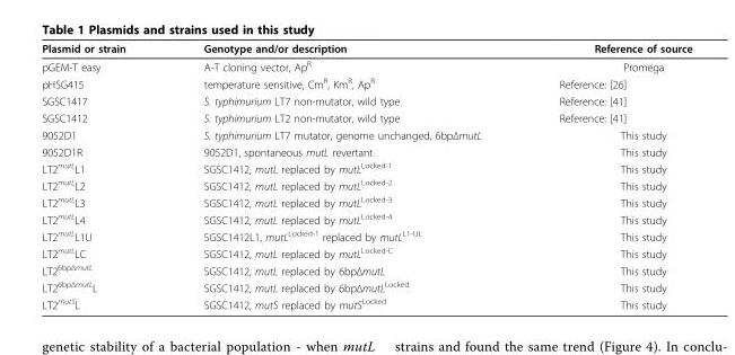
<table><thead><tr><td>Plasmid or strain</td><td>Genotype and/or description</td><td>Reference of source</td></tr></thead><tbody><tr><td>pGEM-T easy</td><td>A-T cloning vector, Ap<sup>R</sup></td><td>Promega</td></tr><tr><td>pHSG415</td><td>temperature sensitive, Cm<sup>R</sup>, Km<sup>R</sup>, Ap<sup>R</sup></td><td>Reference: [26]</td></tr><tr><td>SGSC1417</td><td>S. typhimurium LT7 non-mutator, wild type</td><td>Reference: [41]</td></tr><tr><td>SGSC1412</td><td>S. typhimurium LT2 non-mutator, wild type</td><td>Reference: [41]</td></tr><tr><td>9052D1</td><td>S. typhimurium LT7 mutator, genome unchanged, 6bpΔmutL</td><td>This study</td></tr><tr><td>9052D1R</td><td>9052D1, spontaneous mutL revertant</td><td>This study</td></tr><tr><td>LT2<sup>mutL</sup>L1</td><td>SGSC1412, mutL replaced by mutL<sup>Locked-1</sup></td><td>This study</td></tr><tr><td>LT2<sup>mutL</sup>L2</td><td>SGSC1412, mutL replaced by mutL<sup>Locked-2</sup></td><td>This study</td></tr><tr><td>LT2<sup>mutL</sup>L3</td><td>SGSC1412, mutL replaced by mutL<sup>Locked-3</sup></td><td>This study</td></tr><tr><td>LT2<sup>mutL</sup>L4</td><td>SGSC1412, mutL replaced by mutL<sup>Locked-4</sup></td><td>This study</td></tr><tr><td>LT2<sup>mutL</sup>L1U</td><td>SGSC1412L1, mutL<sup>Locked-1</sup> replaced by mutL<sup>L1-UL</sup></td><td>This study</td></tr><tr><td>LT2<sup>mutL</sup>LC</td><td>SGSC1412, mutL replaced by mutL<sup>Locked-C</sup></td><td>This study</td></tr><tr><td>LT2<sup>6bpΔmutL</sup></td><td>SGSC1412, mutL replaced by 6bpΔmutL</td><td>This study</td></tr><tr><td>LT2<sup>6bpΔmutL</sup>L</td><td>SGSC1412, mutL replaced by 6bpΔmutL<sup>Locked</sup></td><td>This study</td></tr><tr><td>LT2<sup>mutS</sup>L</td><td>SGSC1412, mutS replaced by mutS<sup>Locked</sup></td><td>This study</td></tr></tbody></table>